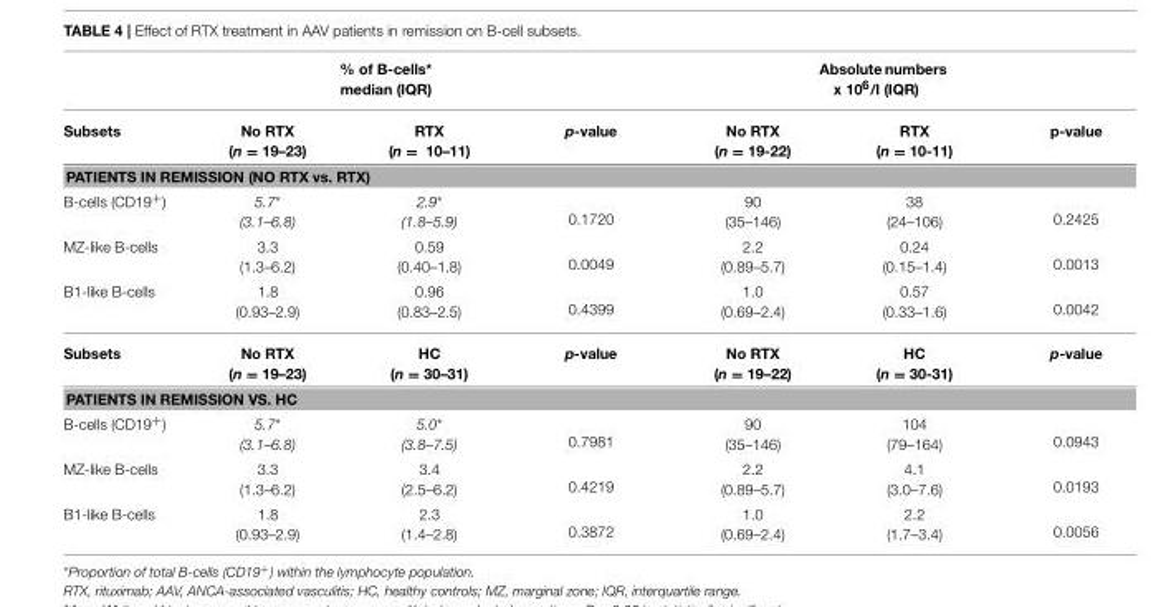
<table><thead><tr><td rowspan="2">Subsets</td><td colspan="3">% of B-cells* median (IQR)</td><td colspan="3">Absolute numbers x 10<sup>6</sup>/l (IQR)</td></tr><tr><td>No RTX (n = 19–23)</td><td>RTX (n = 10–11)</td><td>p-value</td><td>No RTX (n = 19-22)</td><td>RTX (n = 10-11)</td><td>p-value</td></tr><tr><td colspan="7">PATIENTS IN REMISSION (NO RTX vs. RTX)</td></tr></thead><tbody><tr><td>B-cells (CD19<sup>+</sup>)</td><td>5.7* (3.1–6.8)</td><td>2.9* (1.8–5.9)</td><td>0.1720</td><td>90 (35–146)</td><td>38 (24–106)</td><td>0.2425</td></tr><tr><td>MZ-like B-cells</td><td>3.3 (1.3–6.2)</td><td>0.59 (0.40–1.8)</td><td>0.0049</td><td>2.2 (0.89–5.7)</td><td>0.24 (0.15–1.4)</td><td>0.0013</td></tr><tr><td>B1-like B-cells</td><td>1.8 (0.93–2.9)</td><td>0.96 (0.83–2.5)</td><td>0.4399</td><td>1.0 (0.69–2.4)</td><td>0.57 (0.33–1.6)</td><td>0.0042</td></tr><tr><td>Subsets</td><td>No RTX (n = 19–23)</td><td>HC (n = 30–31)</td><td>p-value</td><td>No RTX (n = 19–22)</td><td>HC (n = 30-31)</td><td>p-value</td></tr><tr><td colspan="7">PATIENTS IN REMISSION VS. HC</td></tr><tr><td>B-cells (CD19<sup>+</sup>)</td><td>5.7* (3.1–6.8)</td><td>5.0* (3.8–7.5)</td><td>0.7981</td><td>90 (35–146)</td><td>104 (79–164)</td><td>0.0943</td></tr><tr><td>MZ-like B-cells</td><td>3.3 (1.3–6.2)</td><td>3.4 (2.5–6.2)</td><td>0.4219</td><td>2.2 (0.89–5.7)</td><td>4.1 (3.0–7.6)</td><td>0.0193</td></tr><tr><td>B1-like B-cells</td><td>1.8 (0.93–2.9)</td><td>2.3 (1.4–2.8)</td><td>0.3872</td><td>1.0 (0.69–2.4)</td><td>2.2 (1.7–3.4)</td><td>0.0056</td></tr></tbody></table>